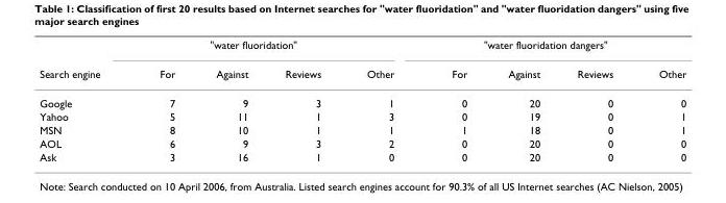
<table><thead><tr><td rowspan="2">Search engine</td><td colspan="4">&quot;water fluoridation&quot;</td><td colspan="4">&quot;water fluoridation dangers&quot;</td></tr><tr><td>For</td><td>Against</td><td>Reviews</td><td>Other</td><td>For</td><td>Against</td><td>Reviews</td><td>Other</td></tr></thead><tbody><tr><td>Google</td><td>7</td><td>9</td><td>3</td><td>1</td><td>0</td><td>20</td><td>0</td><td>0</td></tr><tr><td>Yahoo</td><td>5</td><td>11</td><td>1</td><td>3</td><td>0</td><td>19</td><td>0</td><td>1</td></tr><tr><td>MSN</td><td>8</td><td>10</td><td>1</td><td>1</td><td>1</td><td>18</td><td>0</td><td>1</td></tr><tr><td>AOL</td><td>6</td><td>9</td><td>3</td><td>2</td><td>0</td><td>20</td><td>0</td><td>0</td></tr><tr><td>Ask</td><td>3</td><td>16</td><td>1</td><td>0</td><td>0</td><td>20</td><td>0</td><td>0</td></tr></tbody></table>